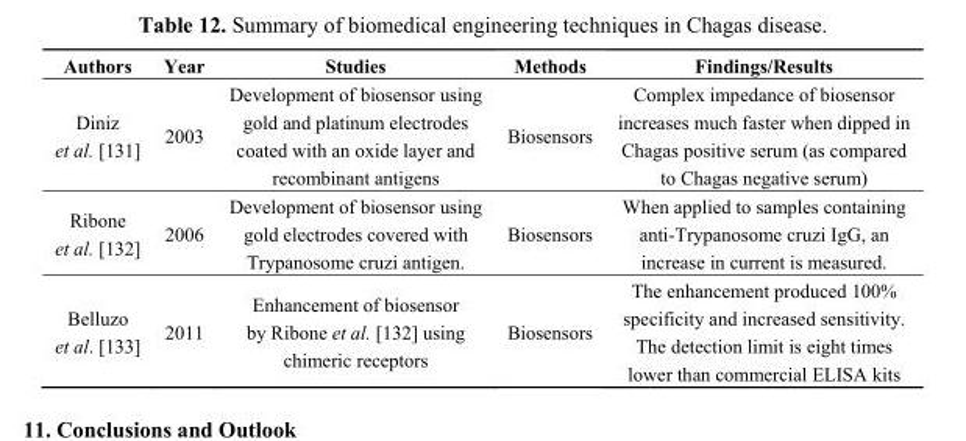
<table><thead><tr><td>Authors</td><td>Year</td><td>Studies</td><td>Methods</td><td>Findings/Results</td></tr></thead><tbody><tr><td>Diniz et al. [131]</td><td>2003</td><td>Development of biosensor using gold and platinum electrodes coated with an oxide layer and recombinant antigens</td><td>Biosensors</td><td>Complex impedance of biosensor increases much faster when dipped in Chagas positive serum (as compared to Chagas negative serum)</td></tr><tr><td>Ribone et al. [132]</td><td>2006</td><td>Development of biosensor using gold electrodes covered with Trypanosome cruzi antigen.</td><td>Biosensors</td><td>When applied to samples containing anti-Trypanosome cruzi IgG, an increase in current is measured.</td></tr><tr><td>Belluzo et al. [133]</td><td>2011</td><td>Enhancement of biosensor by Ribone et al. [132] using chimeric receptors</td><td>Biosensors</td><td>The enhancement produced 100% specificity and increased sensitivity. The detection limit is eight times lower than commercial ELISA kits</td></tr></tbody></table>